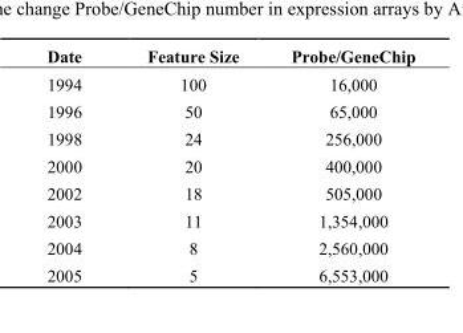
<table><thead><tr><td>Date</td><td>Feature Size</td><td>Probe/GeneChip</td></tr></thead><tbody><tr><td>1994</td><td>100</td><td>16,000</td></tr><tr><td>1996</td><td>50</td><td>65,000</td></tr><tr><td>1998</td><td>24</td><td>256,000</td></tr><tr><td>2000</td><td>20</td><td>400,000</td></tr><tr><td>2002</td><td>18</td><td>505,000</td></tr><tr><td>2003</td><td>11</td><td>1,354,000</td></tr><tr><td>2004</td><td>8</td><td>2,560,000</td></tr><tr><td>2005</td><td>5</td><td>6,553,000</td></tr></tbody></table>